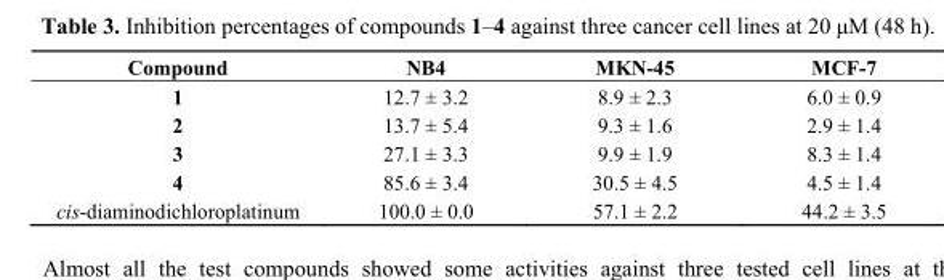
<table><thead><tr><td>Compound</td><td>NB4</td><td>MKN-45</td><td>MCF-7</td></tr></thead><tbody><tr><td>1</td><td>12.7 ± 3.2</td><td>8.9 ± 2.3</td><td>6.0 ± 0.9</td></tr><tr><td>2</td><td>13.7 ± 5.4</td><td>9.3 ± 1.6</td><td>2.9 ± 1.4</td></tr><tr><td>3</td><td>27.1 ± 3.3</td><td>9.9 ± 1.9</td><td>8.3 ± 1.4</td></tr><tr><td>4</td><td>85.6 ± 3.4</td><td>30.5 ± 4.5</td><td>4.5 ± 1.4</td></tr><tr><td>cis-diaminodichloroplatinum</td><td>100.0 ± 0.0</td><td>57.1 ± 2.2</td><td>44.2 ± 3.5</td></tr></tbody></table>